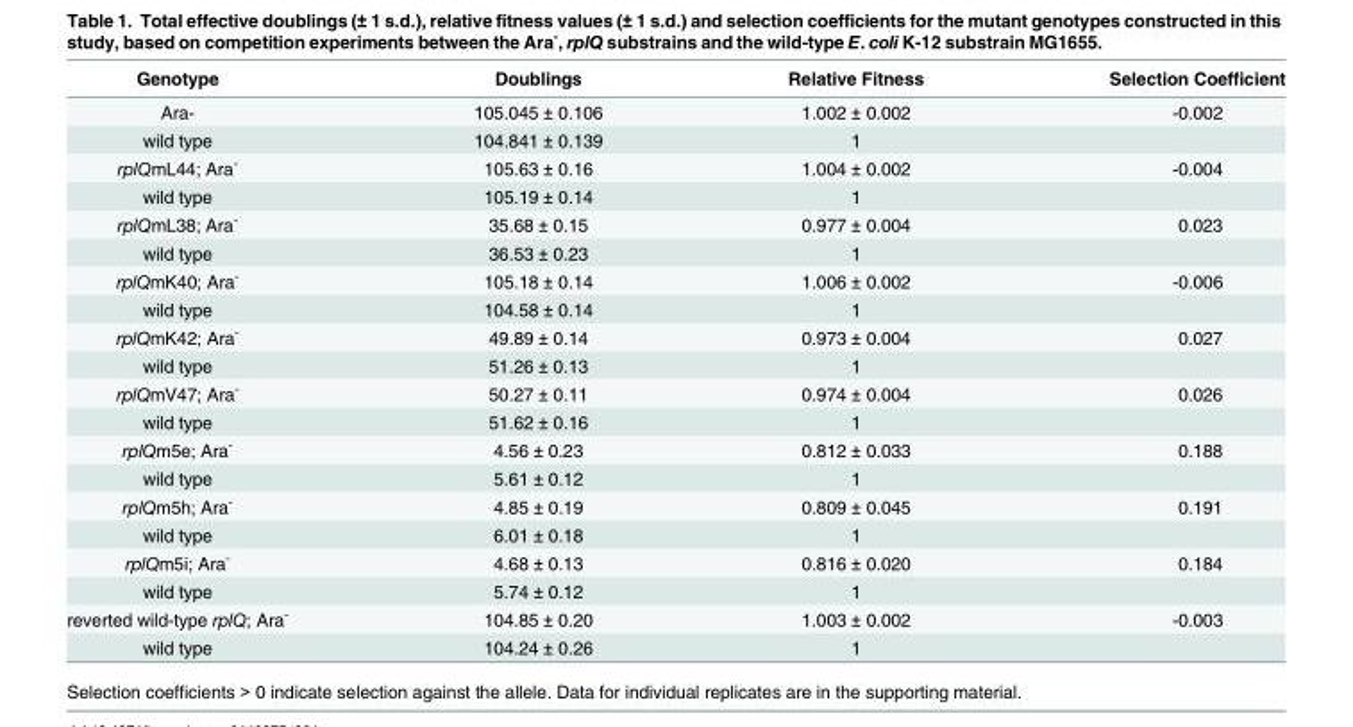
<table><thead><tr><td>Genotype</td><td>Doublings</td><td>Relative Fitness</td><td>Selection Coefficient</td></tr></thead><tbody><tr><td>Ara-</td><td>105.045 ± 0.106</td><td>1.002 ± 0.002</td><td>-0.002</td></tr><tr><td>wild type</td><td>104.841 ± 0.139</td><td>1</td><td></td></tr><tr><td>rplQmL44; Ara<sup>-</sup></td><td>105.63 ± 0.16</td><td>1.004 ± 0.002</td><td>-0.004</td></tr><tr><td>wild type</td><td>105.19 ± 0.14</td><td>1</td><td></td></tr><tr><td>rplQmL38; Ara<sup>-</sup></td><td>35.68 ± 0.15</td><td>0.977 ± 0.004</td><td>0.023</td></tr><tr><td>wild type</td><td>36.53 ± 0.23</td><td>1</td><td></td></tr><tr><td>rplQmK40; Ara<sup>-</sup></td><td>105.18 ± 0.14</td><td>1.006 ± 0.002</td><td>-0.006</td></tr><tr><td>wild type</td><td>104.58 ± 0.14</td><td>1</td><td></td></tr><tr><td>rplQmK42; Ara<sup>-</sup></td><td>49.89 ± 0.14</td><td>0.973 ± 0.004</td><td>0.027</td></tr><tr><td>wild type</td><td>51.26 ± 0.13</td><td>1</td><td></td></tr><tr><td>rplQmV47; Ara<sup>-</sup></td><td>50.27 ± 0.11</td><td>0.974 ± 0.004</td><td>0.026</td></tr><tr><td>wild type</td><td>51.62 ± 0.16</td><td>1</td><td></td></tr><tr><td>rplQm5e; Ara<sup>-</sup></td><td>4.56 ± 0.23</td><td>0.812 ± 0.033</td><td>0.188</td></tr><tr><td>wild type</td><td>5.61 ± 0.12</td><td>1</td><td></td></tr><tr><td>rplQm5h; Ara<sup>-</sup></td><td>4.85 ± 0.19</td><td>0.809 ± 0.045</td><td>0.191</td></tr><tr><td>wild type</td><td>6.01 ± 0.18</td><td>1</td><td></td></tr><tr><td>rplQm5i; Ara<sup>-</sup></td><td>4.68 ± 0.13</td><td>0.816 ± 0.020</td><td>0.184</td></tr><tr><td>wild type</td><td>5.74 ± 0.12</td><td>1</td><td></td></tr><tr><td>reverted wild-type rplQ; Ara<sup>-</sup></td><td>104.85 ± 0.20</td><td>1.003 ± 0.002</td><td>-0.003</td></tr><tr><td>wild type</td><td>104.24 ± 0.26</td><td>1</td><td></td></tr></tbody></table>